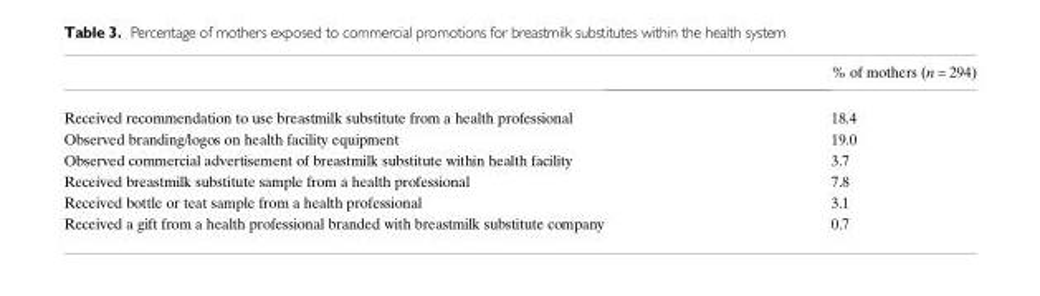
<table><thead><tr><td></td><td>% of mothers (n = 294)</td></tr></thead><tbody><tr><td>Received recommendation to use breastmilk substitute from a health professional</td><td>18.4</td></tr><tr><td>Observed branding/logos on health facility equipment</td><td>19.0</td></tr><tr><td>Observed commercial advertisement of breastmilk substitute within health facility</td><td>3.7</td></tr><tr><td>Received breastmilk substitute sample from a health professional</td><td>7.8</td></tr><tr><td>Received bottle or teat sample from a health professional</td><td>3.1</td></tr><tr><td>Received a gift from a health professional branded with breastmilk substitute company</td><td>0.7</td></tr></tbody></table>